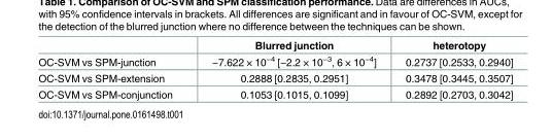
<table><thead><tr><td></td><td>Blurred junction</td><td>heterotopy</td></tr></thead><tbody><tr><td>OC-SVM vs SPM-junction</td><td>−7.622 × 10<sup>−4</sup> [−2.2 × 10<sup>−3</sup>, 6 × 10<sup>−4</sup>]</td><td>0.2737 [0.2533, 0.2940]</td></tr><tr><td>OC-SVM vs SPM-extension</td><td>0.2888 [0.2835, 0.2951]</td><td>0.3478 [0.3445, 0.3507]</td></tr><tr><td>OC-SVM vs SPM-conjunction</td><td>0.1053 [0.1015, 0.1099]</td><td>0.2892 [0.2703, 0.3042]</td></tr></tbody></table>